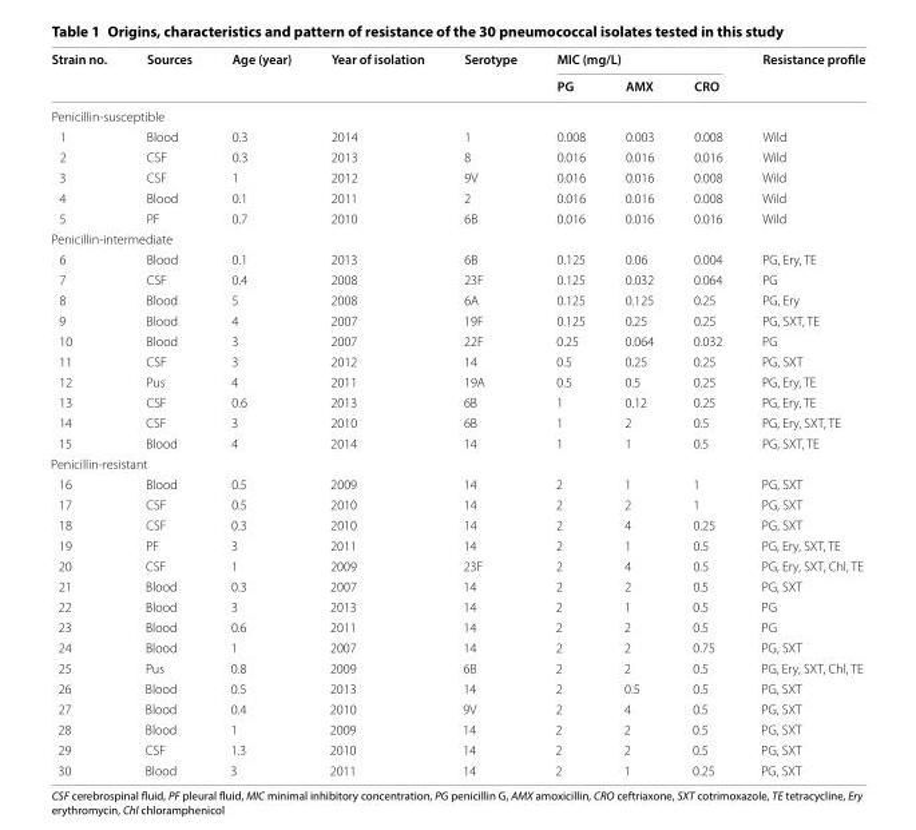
<table><thead><tr><td rowspan="2">Strain no.</td><td rowspan="2">Sources</td><td rowspan="2">Age (year)</td><td rowspan="2">Year of isolation</td><td rowspan="2">Serotype</td><td colspan="3">MIC (mg/L)</td><td rowspan="2">Resistance profile</td></tr><tr><td>PG</td><td>AMX</td><td>CRO</td></tr></thead><tbody><tr><td colspan="9">Penicillin‑susceptible</td></tr><tr><td>1</td><td>Blood</td><td>0.3</td><td>2014</td><td>1</td><td>0.008</td><td>0.003</td><td>0.008</td><td>Wild</td></tr><tr><td>2</td><td>CSF</td><td>0.3</td><td>2013</td><td>8</td><td>0.016</td><td>0.016</td><td>0.016</td><td>Wild</td></tr><tr><td>3</td><td>CSF</td><td>1</td><td>2012</td><td>9V</td><td>0.016</td><td>0.016</td><td>0.008</td><td>Wild</td></tr><tr><td>4</td><td>Blood</td><td>0.1</td><td>2011</td><td>2</td><td>0.016</td><td>0.016</td><td>0.008</td><td>Wild</td></tr><tr><td>5</td><td>PF</td><td>0.7</td><td>2010</td><td>6B</td><td>0.016</td><td>0.016</td><td>0.016</td><td>Wild</td></tr><tr><td colspan="9">Penicillin‑intermediate</td></tr><tr><td>6</td><td>Blood</td><td>0.1</td><td>2013</td><td>6B</td><td>0.125</td><td>0.06</td><td>0.004</td><td>PG, Ery, TE</td></tr><tr><td>7</td><td>CSF</td><td>0.4</td><td>2008</td><td>23F</td><td>0.125</td><td>0.032</td><td>0.064</td><td>PG</td></tr><tr><td>8</td><td>Blood</td><td>5</td><td>2008</td><td>6A</td><td>0.125</td><td>0.125</td><td>0.25</td><td>PG, Ery</td></tr><tr><td>9</td><td>Blood</td><td>4</td><td>2007</td><td>19F</td><td>0.125</td><td>0.25</td><td>0.25</td><td>PG, SXT, TE</td></tr><tr><td>10</td><td>Blood</td><td>3</td><td>2007</td><td>22F</td><td>0.25</td><td>0.064</td><td>0.032</td><td>PG</td></tr><tr><td>11</td><td>CSF</td><td>3</td><td>2012</td><td>14</td><td>0.5</td><td>0.25</td><td>0.25</td><td>PG, SXT</td></tr><tr><td>12</td><td>Pus</td><td>4</td><td>2011</td><td>19A</td><td>0.5</td><td>0.5</td><td>0.25</td><td>PG, Ery, TE</td></tr><tr><td>13</td><td>CSF</td><td>0.6</td><td>2013</td><td>6B</td><td>1</td><td>0.12</td><td>0.25</td><td>PG, Ery, TE</td></tr><tr><td>14</td><td>CSF</td><td>3</td><td>2010</td><td>6B</td><td>1</td><td>2</td><td>0.5</td><td>PG, Ery, SXT, TE</td></tr><tr><td>15</td><td>Blood</td><td>4</td><td>2014</td><td>14</td><td>1</td><td>1</td><td>0.5</td><td>PG, SXT, TE</td></tr><tr><td colspan="9">Penicillin‑resistant</td></tr><tr><td>16</td><td>Blood</td><td>0.5</td><td>2009</td><td>14</td><td>2</td><td>1</td><td>1</td><td>PG, SXT</td></tr><tr><td>17</td><td>CSF</td><td>0.5</td><td>2010</td><td>14</td><td>2</td><td>2</td><td>1</td><td>PG, SXT</td></tr><tr><td>18</td><td>CSF</td><td>0.3</td><td>2010</td><td>14</td><td>2</td><td>4</td><td>0.25</td><td>PG, SXT</td></tr><tr><td>19</td><td>PF</td><td>3</td><td>2011</td><td>14</td><td>2</td><td>1</td><td>0.5</td><td>PG, Ery, SXT, TE</td></tr><tr><td>20</td><td>CSF</td><td>1</td><td>2009</td><td>23F</td><td>2</td><td>4</td><td>0.5</td><td>PG, Ery, SXT, Chl, TE</td></tr><tr><td>21</td><td>Blood</td><td>0.3</td><td>2007</td><td>14</td><td>2</td><td>2</td><td>0.5</td><td>PG, SXT</td></tr><tr><td>22</td><td>Blood</td><td>3</td><td>2013</td><td>14</td><td>2</td><td>1</td><td>0.5</td><td>PG</td></tr><tr><td>23</td><td>Blood</td><td>0.6</td><td>2011</td><td>14</td><td>2</td><td>2</td><td>0.5</td><td>PG</td></tr><tr><td>24</td><td>Blood</td><td>1</td><td>2007</td><td>14</td><td>2</td><td>2</td><td>0.75</td><td>PG, SXT</td></tr><tr><td>25</td><td>Pus</td><td>0.8</td><td>2009</td><td>6B</td><td>2</td><td>2</td><td>0.5</td><td>PG, Ery, SXT, Chl, TE</td></tr><tr><td>26</td><td>Blood</td><td>0.5</td><td>2013</td><td>14</td><td>2</td><td>0.5</td><td>0.5</td><td>PG, SXT</td></tr><tr><td>27</td><td>Blood</td><td>0.4</td><td>2010</td><td>9V</td><td>2</td><td>4</td><td>0.5</td><td>PG, SXT</td></tr><tr><td>28</td><td>Blood</td><td>1</td><td>2009</td><td>14</td><td>2</td><td>2</td><td>0.5</td><td>PG, SXT</td></tr><tr><td>29</td><td>CSF</td><td>1.3</td><td>2010</td><td>14</td><td>2</td><td>2</td><td>0.5</td><td>PG, SXT</td></tr><tr><td>30</td><td>Blood</td><td>3</td><td>2011</td><td>14</td><td>2</td><td>1</td><td>0.25</td><td>PG, SXT</td></tr></tbody></table>